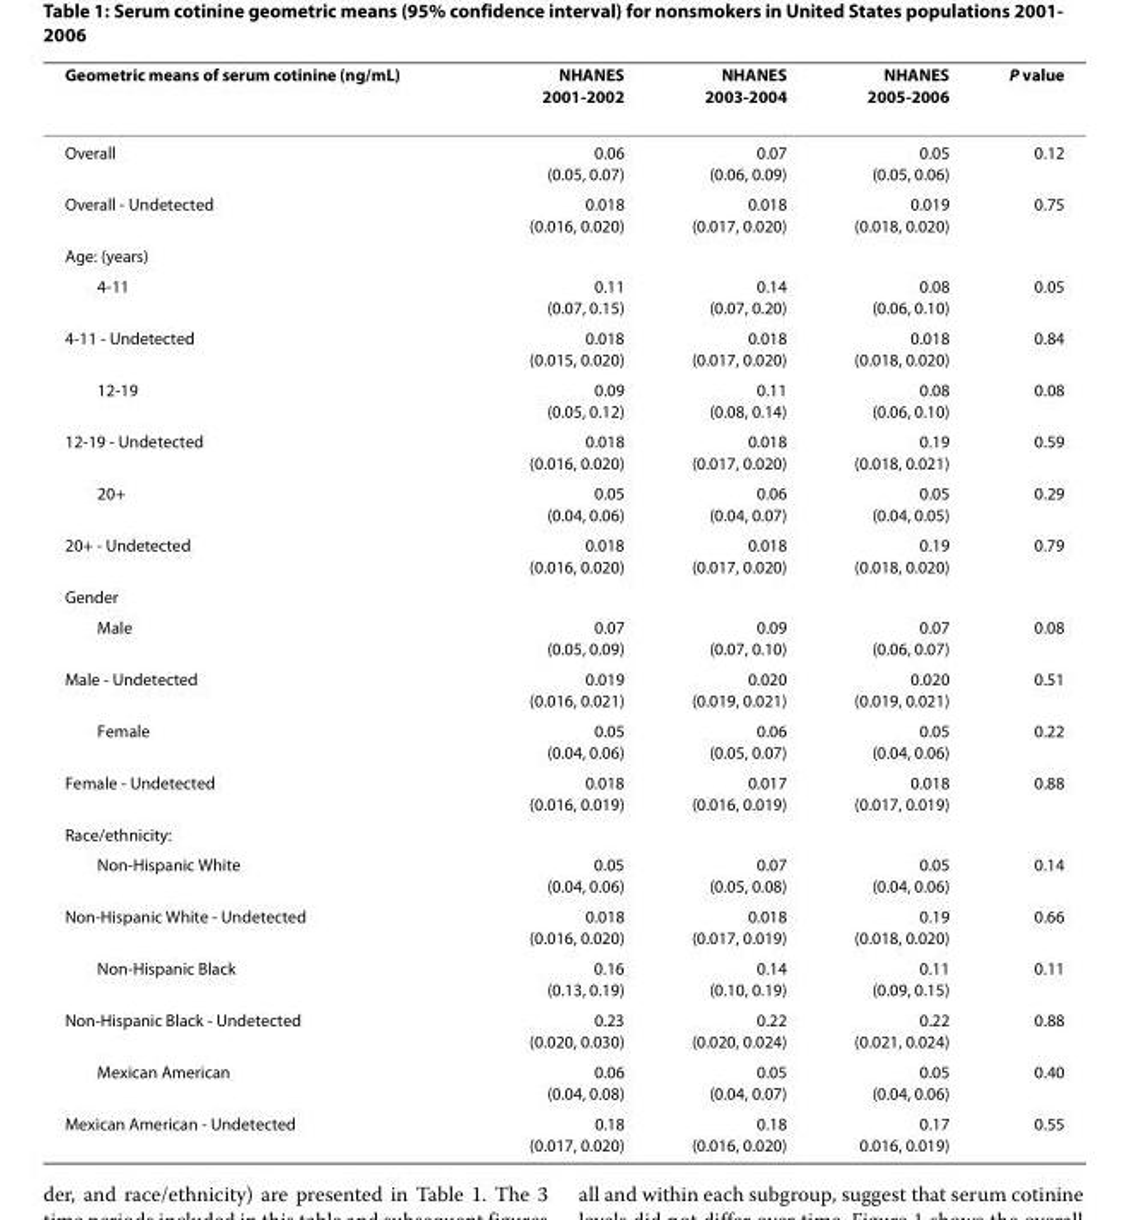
<table><thead><tr><td>Geometric means of serum cotinine (ng/mL)</td><td>NHANES 2001-2002</td><td>NHANES 2003-2004</td><td>NHANES 2005-2006</td><td>P value</td></tr></thead><tbody><tr><td>Overall</td><td>0.06 (0.05, 0.07)</td><td>0.07 (0.06, 0.09)</td><td>0.05 (0.05, 0.06)</td><td>0.12</td></tr><tr><td>Overall - Undetected</td><td>0.018 (0.016, 0.020)</td><td>0.018 (0.017, 0.020)</td><td>0.019 (0.018, 0.020)</td><td>0.75</td></tr><tr><td colspan="5">Age: (years)</td></tr><tr><td>4-11</td><td>0.11 (0.07, 0.15)</td><td>0.14 (0.07, 0.20)</td><td>0.08 (0.06, 0.10)</td><td>0.05</td></tr><tr><td>4-11 - Undetected</td><td>0.018 (0.015, 0.020)</td><td>0.018 (0.017, 0.020)</td><td>0.018 (0.018, 0.020)</td><td>0.84</td></tr><tr><td>12-19</td><td>0.09 (0.05, 0.12)</td><td>0.11 (0.08, 0.14)</td><td>0.08 (0.06, 0.10)</td><td>0.08</td></tr><tr><td>12-19 - Undetected</td><td>0.018 (0.016, 0.020)</td><td>0.018 (0.017, 0.020)</td><td>0.19 (0.018, 0.021)</td><td>0.59</td></tr><tr><td>20+</td><td>0.05 (0.04, 0.06)</td><td>0.06 (0.04, 0.07)</td><td>0.05 (0.04, 0.05)</td><td>0.29</td></tr><tr><td>20+ - Undetected</td><td>0.018 (0.016, 0.020)</td><td>0.018 (0.017, 0.020)</td><td>0.19 (0.018, 0.020)</td><td>0.79</td></tr><tr><td colspan="5">Gender</td></tr><tr><td>Male</td><td>0.07 (0.05, 0.09)</td><td>0.09 (0.07, 0.10)</td><td>0.07 (0.06, 0.07)</td><td>0.08</td></tr><tr><td>Male - Undetected</td><td>0.019 (0.016, 0.021)</td><td>0.020 (0.019, 0.021)</td><td>0.020 (0.019, 0.021)</td><td>0.51</td></tr><tr><td>Female</td><td>0.05 (0.04, 0.06)</td><td>0.06 (0.05, 0.07)</td><td>0.05 (0.04, 0.06)</td><td>0.22</td></tr><tr><td>Female - Undetected</td><td>0.018 (0.016, 0.019)</td><td>0.017 (0.016, 0.019)</td><td>0.018 (0.017, 0.019)</td><td>0.88</td></tr><tr><td colspan="5">Race/ethnicity:</td></tr><tr><td>Non-Hispanic White</td><td>0.05 (0.04, 0.06)</td><td>0.07 (0.05, 0.08)</td><td>0.05 (0.04, 0.06)</td><td>0.14</td></tr><tr><td>Non-Hispanic White - Undetected</td><td>0.018 (0.016, 0.020)</td><td>0.018 (0.017, 0.019)</td><td>0.19 (0.018, 0.020)</td><td>0.66</td></tr><tr><td>Non-Hispanic Black</td><td>0.16 (0.13, 0.19)</td><td>0.14 (0.10, 0.19)</td><td>0.11 (0.09, 0.15)</td><td>0.11</td></tr><tr><td>Non-Hispanic Black - Undetected</td><td>0.23 (0.020, 0.030)</td><td>0.22 (0.020, 0.024)</td><td>0.22 (0.021, 0.024)</td><td>0.88</td></tr><tr><td>Mexican American</td><td>0.06 (0.04, 0.08)</td><td>0.05 (0.04, 0.07)</td><td>0.05 (0.04, 0.06)</td><td>0.40</td></tr><tr><td>Mexican American - Undetected</td><td>0.18 (0.017, 0.020)</td><td>0.18 (0.016, 0.020)</td><td>0.17 0.016, 0.019)</td><td>0.55</td></tr></tbody></table>